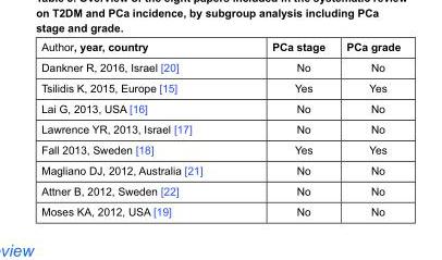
<table><thead><tr><td>Author, year, country</td><td>PCa stage</td><td>PCa grade</td></tr></thead><tbody><tr><td>Dankner R, 2016, Israel [20]</td><td>No</td><td>No</td></tr><tr><td>Tsilidis K, 2015, Europe [15]</td><td>Yes</td><td>Yes</td></tr><tr><td>Lai G, 2013, USA [16]</td><td>No</td><td>No</td></tr><tr><td>Lawrence YR, 2013, Israel [17]</td><td>No</td><td>No</td></tr><tr><td>Fall 2013, Sweden [18]</td><td>Yes</td><td>Yes</td></tr><tr><td>Magliano DJ, 2012, Australia [21]</td><td>No</td><td>No</td></tr><tr><td>Attner B, 2012, Sweden [22]</td><td>No</td><td>No</td></tr><tr><td>Moses KA, 2012, USA [19]</td><td>No</td><td>No</td></tr></tbody></table>